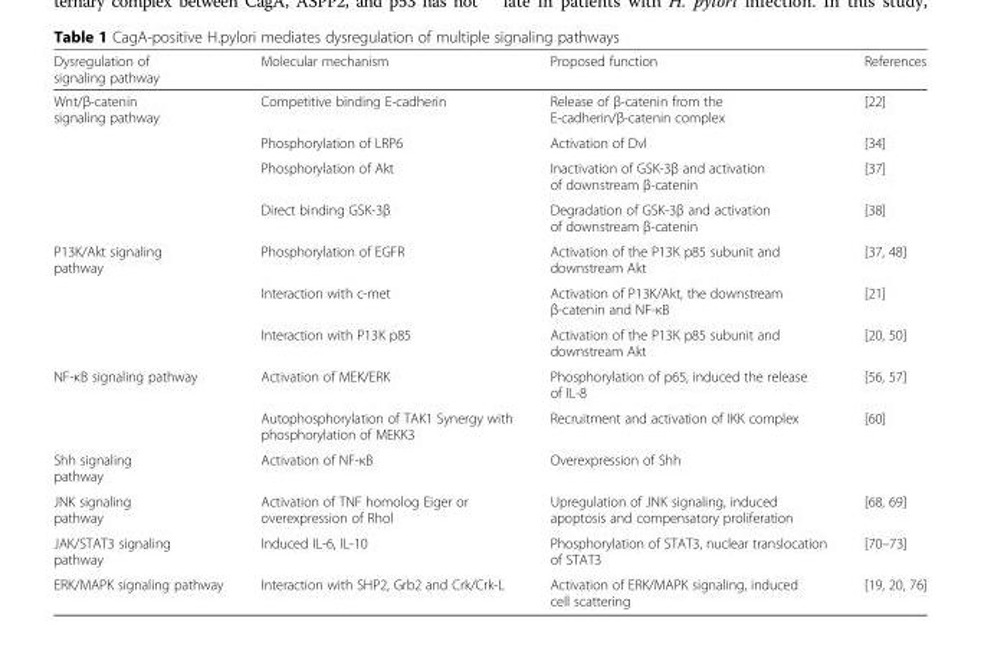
<table><thead><tr><td>Dysregulation of signaling pathway</td><td>Molecular mechanism</td><td>Proposed function</td><td>References</td></tr></thead><tbody><tr><td rowspan="4">Wnt/β-catenin signaling pathway</td><td>Competitive binding E-cadherin</td><td>Release of β-catenin from the E-cadherin/β-catenin complex</td><td>[22]</td></tr><tr><td>Phosphorylation of LRP6</td><td>Activation of Dvl</td><td>[34]</td></tr><tr><td>Phosphorylation of Akt</td><td>Inactivation of GSK-3β and activation of downstream β-catenin</td><td>[37]</td></tr><tr><td>Direct binding GSK-3β</td><td>Degradation of GSK-3β and activation of downstream β-catenin</td><td>[38]</td></tr><tr><td rowspan="3">P13K/Akt signaling pathway</td><td>Phosphorylation of EGFR</td><td>Activation of the P13K p85 subunit and downstream Akt</td><td>[37, 48]</td></tr><tr><td>Interaction with c-met</td><td>Activation of P13K/Akt, the downstream β-catenin and NF-κB</td><td>[21]</td></tr><tr><td>Interaction with P13K p85</td><td>Activation of the P13K p85 subunit and downstream Akt</td><td>[20, 50]</td></tr><tr><td rowspan="2">NF-κB signaling pathway</td><td>Activation of MEK/ERK</td><td>Phosphorylation of p65, induced the release of IL-8</td><td>[56, 57]</td></tr><tr><td>Autophosphorylation of TAK1 Synergy with phosphorylation of MEKK3</td><td>Recruitment and activation of IKK complex</td><td>[60]</td></tr><tr><td>Shh signaling pathway</td><td>Activation of NF-κB</td><td>Overexpression of Shh</td><td></td></tr><tr><td>JNK signaling pathway</td><td>Activation of TNF homolog Eiger or overexpression of Rhol</td><td>Upregulation of JNK signaling, induced apoptosis and compensatory proliferation</td><td>[68, 69]</td></tr><tr><td>JAK/STAT3 signaling pathway</td><td>Induced IL-6, IL-10</td><td>Phosphorylation of STAT3, nuclear translocation of STAT3</td><td>[70–73]</td></tr><tr><td>ERK/MAPK signaling pathway</td><td>Interaction with SHP2, Grb2 and Crk/Crk-L</td><td>Activation of ERK/MAPK signaling, induced cell scattering</td><td>[19, 20, 76]</td></tr></tbody></table>